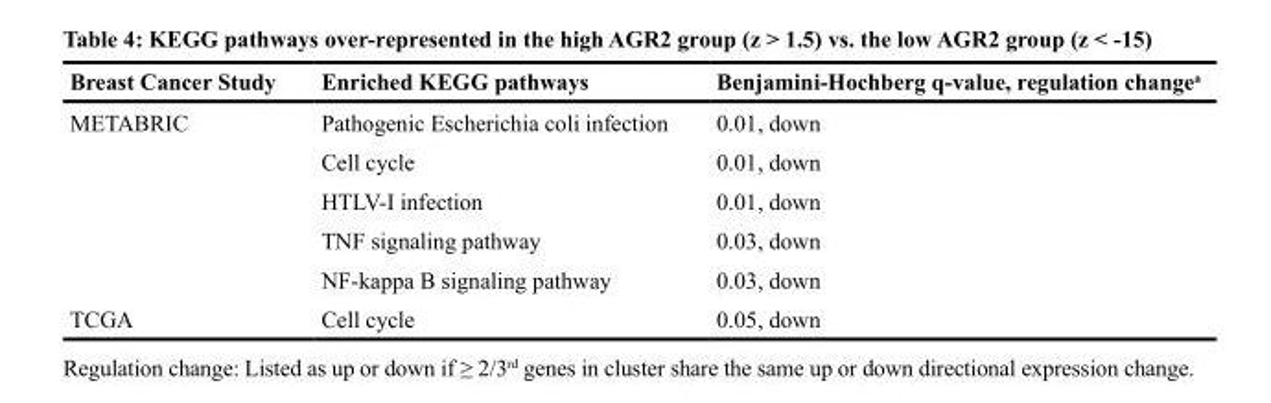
<table><thead><tr><td>Breast Cancer Study</td><td>Enriched KEGG pathways</td><td>Benjamini-Hochberg q-value, regulation change<sup>a</sup></td></tr></thead><tbody><tr><td rowspan="5">METABRIC</td><td>Pathogenic Escherichia coli infection</td><td>0.01, down</td></tr><tr><td>Cell cycle</td><td>0.01, down</td></tr><tr><td>HTLV-I infection</td><td>0.01, down</td></tr><tr><td>TNF signaling pathway</td><td>0.03, down</td></tr><tr><td>NF-kappa B signaling pathway</td><td>0.03, down</td></tr><tr><td>TCGA</td><td>Cell cycle</td><td>0.05, down</td></tr></tbody></table>